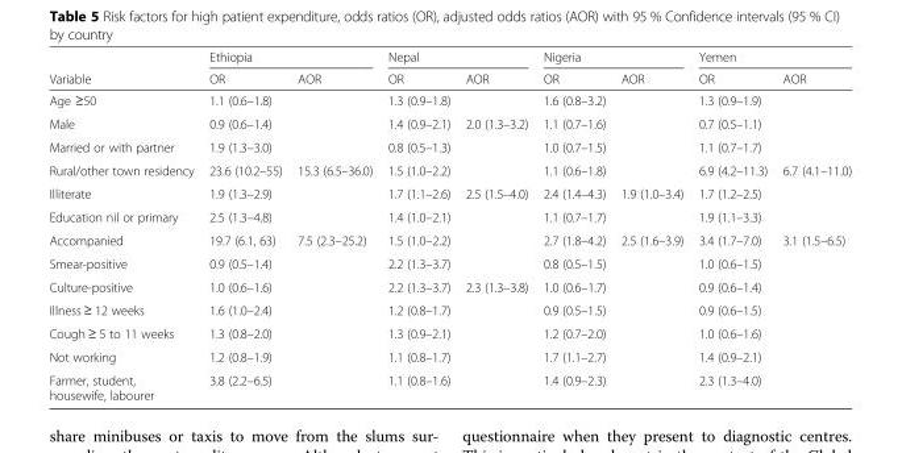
<table><thead><tr><td rowspan="2">Variable</td><td colspan="2">Ethiopia</td><td colspan="2">Nepal</td><td colspan="2">Nigeria</td><td colspan="2">Yemen</td></tr><tr><td>OR</td><td>AOR</td><td>OR</td><td>AOR</td><td>OR</td><td>AOR</td><td>OR</td><td>AOR</td></tr></thead><tbody><tr><td>Age ≥50</td><td>1.1 (0.6–1.8)</td><td></td><td>1.3 (0.9–1.8)</td><td></td><td>1.6 (0.8–3.2)</td><td></td><td>1.3 (0.9–1.9)</td><td></td></tr><tr><td>Male</td><td>0.9 (0.6–1.4)</td><td></td><td>1.4 (0.9–2.1)</td><td>2.0 (1.3–3.2)</td><td>1.1 (0.7–1.6)</td><td></td><td>0.7 (0.5–1.1)</td><td></td></tr><tr><td>Married or with partner</td><td>1.9 (1.3–3.0)</td><td></td><td>0.8 (0.5–1.3)</td><td></td><td>1.0 (0.7–1.5)</td><td></td><td>1.1 (0.7–1.7)</td><td></td></tr><tr><td>Rural/other town residency</td><td>23.6 (10.2–55)</td><td>15.3 (6.5–36.0)</td><td>1.5 (1.0–2.2)</td><td></td><td>1.1 (0.6–1.8)</td><td></td><td>6.9 (4.2–11.3)</td><td>6.7 (4.1–11.0)</td></tr><tr><td>Illiterate</td><td>1.9 (1.3–2.9)</td><td></td><td>1.7 (1.1–2.6)</td><td>2.5 (1.5–4.0)</td><td>2.4 (1.4–4.3)</td><td>1.9 (1.0–3.4)</td><td>1.7 (1.2–2.5)</td><td></td></tr><tr><td>Education nil or primary</td><td>2.5 (1.3–4.8)</td><td></td><td>1.4 (1.0–2.1)</td><td></td><td>1.1 (0.7–1.7)</td><td></td><td>1.9 (1.1–3.3)</td><td></td></tr><tr><td>Accompanied</td><td>19.7 (6.1, 63)</td><td>7.5 (2.3–25.2)</td><td>1.5 (1.0–2.2)</td><td></td><td>2.7 (1.8–4.2)</td><td>2.5 (1.6–3.9)</td><td>3.4 (1.7–7.0)</td><td>3.1 (1.5–6.5)</td></tr><tr><td>Smear-positive</td><td>0.9 (0.5–1.4)</td><td></td><td>2.2 (1.3–3.7)</td><td></td><td>0.8 (0.5–1.5)</td><td></td><td>1.0 (0.6–1.5)</td><td></td></tr><tr><td>Culture-positive</td><td>1.0 (0.6–1.6)</td><td></td><td>2.2 (1.3–3.7)</td><td>2.3 (1.3–3.8)</td><td>1.0 (0.6–1.7)</td><td></td><td>0.9 (0.6–1.4)</td><td></td></tr><tr><td>Illness ≥ 12 weeks</td><td>1.6 (1.0–2.4)</td><td></td><td>1.2 (0.8–1.7)</td><td></td><td>0.9 (0.5–1.5)</td><td></td><td>0.9 (0.6–1.5)</td><td></td></tr><tr><td>Cough ≥ 5 to 11 weeks</td><td>1.3 (0.8–2.0)</td><td></td><td>1.3 (0.9–2.1)</td><td></td><td>1.2 (0.7–2.0)</td><td></td><td>1.0 (0.6–1.6)</td><td></td></tr><tr><td>Not working</td><td>1.2 (0.8–1.9)</td><td></td><td>1.1 (0.8–1.7)</td><td></td><td>1.7 (1.1–2.7)</td><td></td><td>1.4 (0.9–2.1)</td><td></td></tr><tr><td>Farmer, student, housewife, labourer</td><td>3.8 (2.2–6.5)</td><td></td><td>1.1 (0.8–1.6)</td><td></td><td>1.4 (0.9–2.3)</td><td></td><td>2.3 (1.3–4.0)</td><td></td></tr></tbody></table>